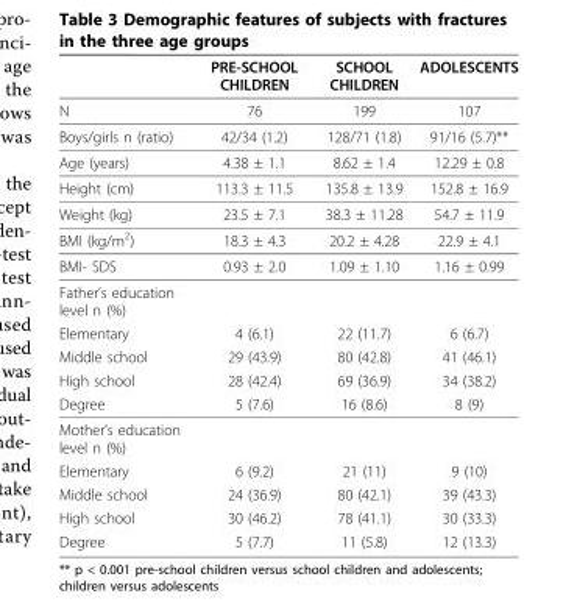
<table><thead><tr><td></td><td>PRE-SCHOOL CHILDREN</td><td>SCHOOL CHILDREN</td><td>ADOLESCENTS</td></tr></thead><tbody><tr><td>N</td><td>76</td><td>199</td><td>107</td></tr><tr><td>Boys/girls n (ratio)</td><td>42/34 (1.2)</td><td>128/71 (1.8)</td><td>91/16 (5.7)**</td></tr><tr><td>Age (years)</td><td>4.38 ± 1.1</td><td>8.62 ± 1.4</td><td>12.29 ± 0.8</td></tr><tr><td>Height (cm)</td><td>113.3 ± 11.5</td><td>135.8 ± 13.9</td><td>152.8 ± 16.9</td></tr><tr><td>Weight (kg)</td><td>23.5 ± 7.1</td><td>38.3 ± 11.28</td><td>54.7 ± 11.9</td></tr><tr><td>BMI (kg/m<sup>2</sup>)</td><td>18.3 ± 4.3</td><td>20.2 ± 4.28</td><td>22.9 ± 4.1</td></tr><tr><td>BMI- SDS</td><td>0.93 ± 2.0</td><td>1.09 ± 1.10</td><td>1.16 ± 0.99</td></tr><tr><td colspan="4">Father’s education level n (%)</td></tr><tr><td>Elementary</td><td>4 (6.1)</td><td>22 (11.7)</td><td>6 (6.7)</td></tr><tr><td>Middle school</td><td>29 (43.9)</td><td>80 (42.8)</td><td>41 (46.1)</td></tr><tr><td>High school</td><td>28 (42.4)</td><td>69 (36.9)</td><td>34 (38.2)</td></tr><tr><td>Degree</td><td>5 (7.6)</td><td>16 (8.6)</td><td>8 (9)</td></tr><tr><td colspan="4">Mother’s education level n (%)</td></tr><tr><td>Elementary</td><td>6 (9.2)</td><td>21 (11)</td><td>9 (10)</td></tr><tr><td>Middle school</td><td>24 (36.9)</td><td>80 (42.1)</td><td>39 (43.3)</td></tr><tr><td>High school</td><td>30 (46.2)</td><td>78 (41.1)</td><td>30 (33.3)</td></tr><tr><td>Degree</td><td>5 (7.7)</td><td>11 (5.8)</td><td>12 (13.3)</td></tr></tbody></table>